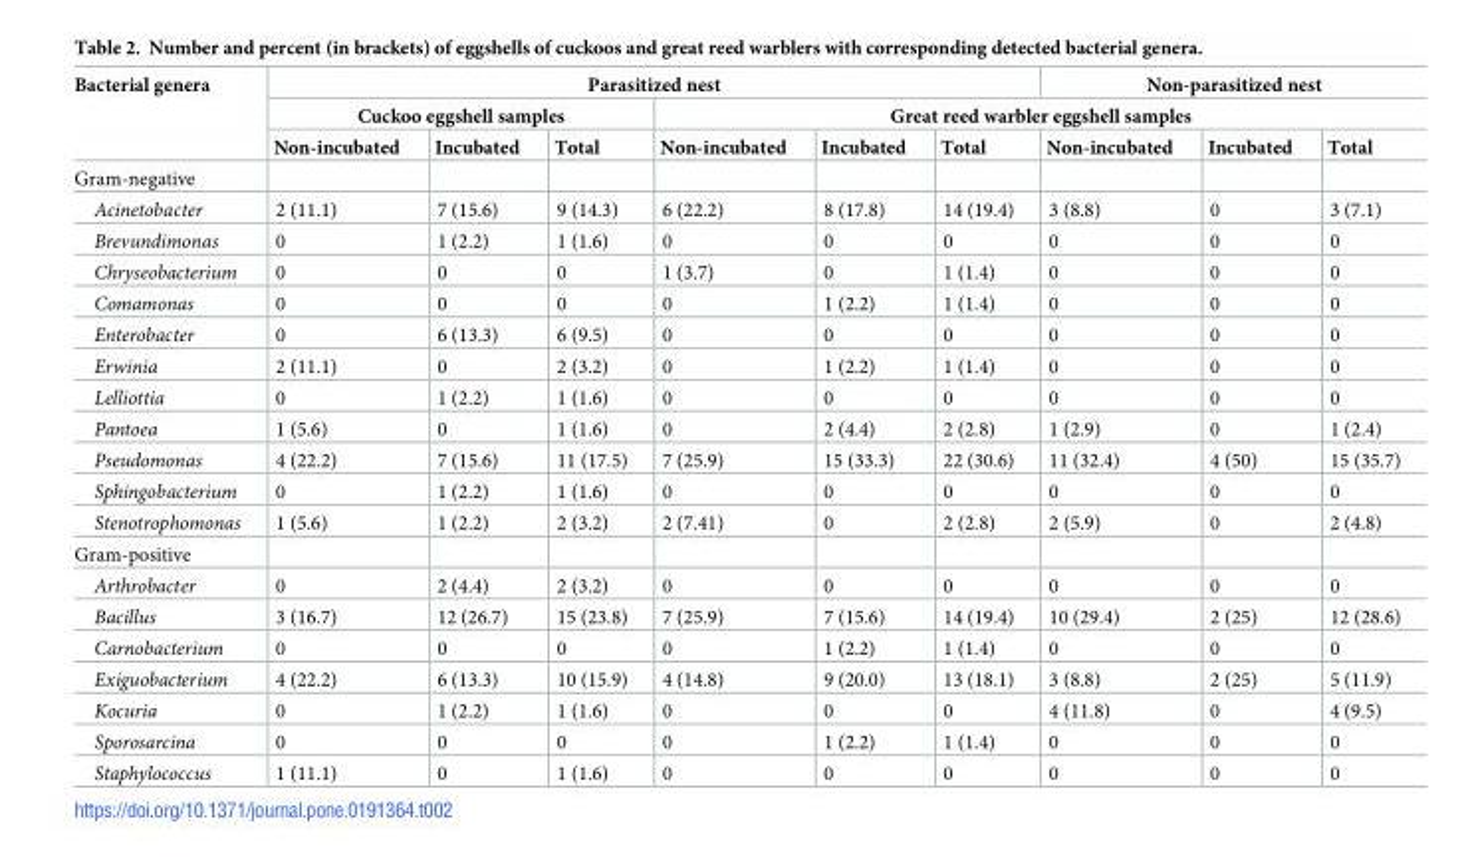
<table><thead><tr><td rowspan="3">Bacterial genera</td><td colspan="6">Parasitized nest</td><td colspan="3">Non-parasitized nest</td></tr><tr><td colspan="3">Cuckoo eggshell samples</td><td colspan="6">Great reed warbler eggshell samples</td></tr><tr><td>Non-incubated</td><td>Incubated</td><td>Total</td><td>Non-incubated</td><td>Incubated</td><td>Total</td><td>Non-incubated</td><td>Incubated</td><td>Total</td></tr></thead><tbody><tr><td colspan="10">Gram-negative</td></tr><tr><td>Acinetobacter</td><td>2 (11.1)</td><td>7 (15.6)</td><td>9 (14.3)</td><td>6 (22.2)</td><td>8 (17.8)</td><td>14 (19.4)</td><td>3 (8.8)</td><td>0</td><td>3 (7.1)</td></tr><tr><td>Brevundimonas</td><td>0</td><td>1 (2.2)</td><td>1 (1.6)</td><td>0</td><td>0</td><td>0</td><td>0</td><td>0</td><td>0</td></tr><tr><td>Chryseobacterium</td><td>0</td><td>0</td><td>0</td><td>1 (3.7)</td><td>0</td><td>1 (1.4)</td><td>0</td><td>0</td><td>0</td></tr><tr><td>Comamonas</td><td>0</td><td>0</td><td>0</td><td>0</td><td>1 (2.2)</td><td>1 (1.4)</td><td>0</td><td>0</td><td>0</td></tr><tr><td>Enterobacter</td><td>0</td><td>6 (13.3)</td><td>6 (9.5)</td><td>0</td><td>0</td><td>0</td><td>0</td><td>0</td><td>0</td></tr><tr><td>Erwinia</td><td>2 (11.1)</td><td>0</td><td>2 (3.2)</td><td>0</td><td>1 (2.2)</td><td>1 (1.4)</td><td>0</td><td>0</td><td>0</td></tr><tr><td>Lelliottia</td><td>0</td><td>1 (2.2)</td><td>1 (1.6)</td><td>0</td><td>0</td><td>0</td><td>0</td><td>0</td><td>0</td></tr><tr><td>Pantoea</td><td>1 (5.6)</td><td>0</td><td>1 (1.6)</td><td>0</td><td>2 (4.4)</td><td>2 (2.8)</td><td>1 (2.9)</td><td>0</td><td>1 (2.4)</td></tr><tr><td>Pseudomonas</td><td>4 (22.2)</td><td>7 (15.6)</td><td>11 (17.5)</td><td>7 (25.9)</td><td>15 (33.3)</td><td>22 (30.6)</td><td>11 (32.4)</td><td>4 (50)</td><td>15 (35.7)</td></tr><tr><td>Sphingobacterium</td><td>0</td><td>1 (2.2)</td><td>1 (1.6)</td><td>0</td><td>0</td><td>0</td><td>0</td><td>0</td><td>0</td></tr><tr><td>Stenotrophomonas</td><td>1 (5.6)</td><td>1 (2.2)</td><td>2 (3.2)</td><td>2 (7.41)</td><td>0</td><td>2 (2.8)</td><td>2 (5.9)</td><td>0</td><td>2 (4.8)</td></tr><tr><td colspan="10">Gram-positive</td></tr><tr><td>Arthrobacter</td><td>0</td><td>2 (4.4)</td><td>2 (3.2)</td><td>0</td><td>0</td><td>0</td><td>0</td><td>0</td><td>0</td></tr><tr><td>Bacillus</td><td>3 (16.7)</td><td>12 (26.7)</td><td>15 (23.8)</td><td>7 (25.9)</td><td>7 (15.6)</td><td>14 (19.4)</td><td>10 (29.4)</td><td>2 (25)</td><td>12 (28.6)</td></tr><tr><td>Carnobacterium</td><td>0</td><td>0</td><td>0</td><td>0</td><td>1 (2.2)</td><td>1 (1.4)</td><td>0</td><td>0</td><td>0</td></tr><tr><td>Exiguobacterium</td><td>4 (22.2)</td><td>6 (13.3)</td><td>10 (15.9)</td><td>4 (14.8)</td><td>9 (20.0)</td><td>13 (18.1)</td><td>3 (8.8)</td><td>2 (25)</td><td>5 (11.9)</td></tr><tr><td>Kocuria</td><td>0</td><td>1 (2.2)</td><td>1 (1.6)</td><td>0</td><td>0</td><td>0</td><td>4 (11.8)</td><td>0</td><td>4 (9.5)</td></tr><tr><td>Sporosarcina</td><td>0</td><td>0</td><td>0</td><td>0</td><td>1 (2.2)</td><td>1 (1.4)</td><td>0</td><td>0</td><td>0</td></tr><tr><td>Staphylococcus</td><td>1 (11.1)</td><td>0</td><td>1 (1.6)</td><td>0</td><td>0</td><td>0</td><td>0</td><td>0</td><td>0</td></tr></tbody></table>